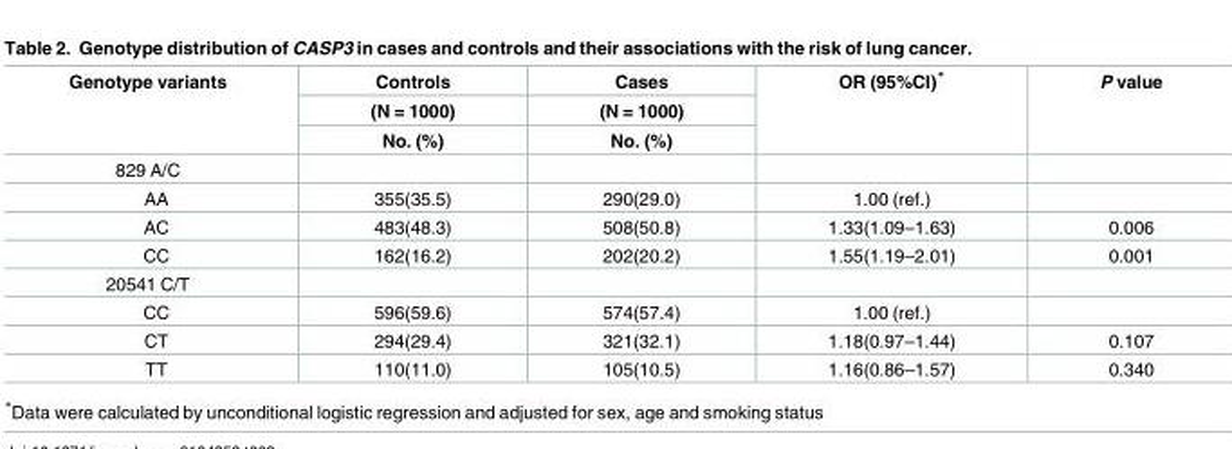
<table><thead><tr><td rowspan="3">Genotype variants</td><td rowspan="3">Controls (N = 1000) No. (%)</td><td rowspan="3">Cases (N = 1000) No. (%)</td><td rowspan="3">OR (95%CI)*</td><td rowspan="3">P value</td></tr><tr></tr><tr></tr></thead><tbody><tr><td colspan="5">829 A/C</td></tr><tr><td>AA</td><td>355(35.5)</td><td>290(29.0)</td><td>1.00 (ref.)</td><td></td></tr><tr><td>AC</td><td>483(48.3)</td><td>508(50.8)</td><td>1.33(1.09–1.63)</td><td>0.006</td></tr><tr><td>CC</td><td>162(16.2)</td><td>202(20.2)</td><td>1.55(1.19–2.01)</td><td>0.001</td></tr><tr><td colspan="5">20541 C/T</td></tr><tr><td>CC</td><td>596(59.6)</td><td>574(57.4)</td><td>1.00 (ref.)</td><td></td></tr><tr><td>CT</td><td>294(29.4)</td><td>321(32.1)</td><td>1.18(0.97–1.44)</td><td>0.107</td></tr><tr><td>TT</td><td>110(11.0)</td><td>105(10.5)</td><td>1.16(0.86–1.57)</td><td>0.340</td></tr></tbody></table>